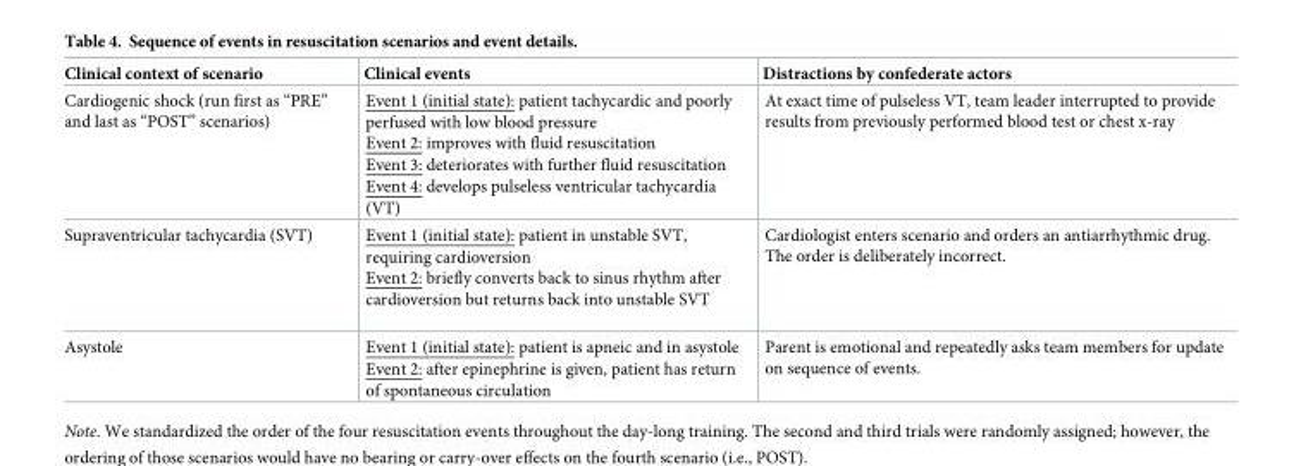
<table><thead><tr><td>Clinical context of scenario</td><td>Clinical events</td><td>Distractions by confederate actors</td></tr></thead><tbody><tr><td>Cardiogenic shock (run first as “PRE” and last as “POST” scenarios)</td><td>Event 1 (initial state): patient tachycardic and poorly perfused with low blood pressure Event 2: improves with fluid resuscitation Event 3: deteriorates with further fluid resuscitation Event 4: develops pulseless ventricular tachycardia (VT)</td><td>At exact time of pulseless VT, team leader interrupted to provide results from previously performed blood test or chest x-ray</td></tr><tr><td>Supraventricular tachycardia (SVT)</td><td>Event 1 (initial state): patient in unstable SVT, requiring cardioversion Event 2: briefly converts back to sinus rhythm after cardioversion but returns back into unstable SVT</td><td>Cardiologist enters scenario and orders an antiarrhythmic drug. The order is deliberately incorrect.</td></tr><tr><td>Asystole</td><td>Event 1 (initial state): patient is apneic and in asystole Event 2: after epinephrine is given, patient has return of spontaneous circulation</td><td>Parent is emotional and repeatedly asks team members for update on sequence of events.</td></tr></tbody></table>